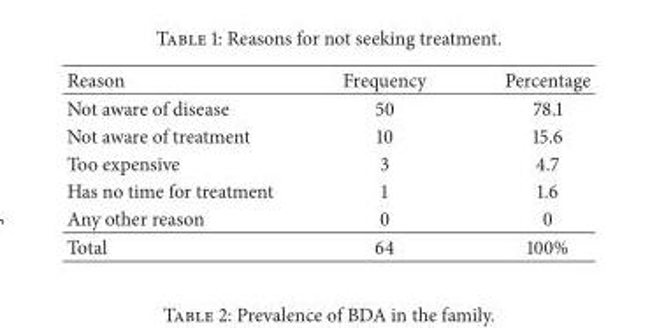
<table><thead><tr><td>Reason</td><td>Frequency</td><td>Percentage</td></tr></thead><tbody><tr><td>Not aware of disease</td><td>50</td><td>78.1</td></tr><tr><td>Not aware of treatment</td><td>10</td><td>15.6</td></tr><tr><td>Too expensive</td><td>3</td><td>4.7</td></tr><tr><td>Has no time for treatment</td><td>1</td><td>1.6</td></tr><tr><td>Any other reason</td><td>0</td><td>0</td></tr><tr><td>Total</td><td>64</td><td>100%</td></tr></tbody></table>